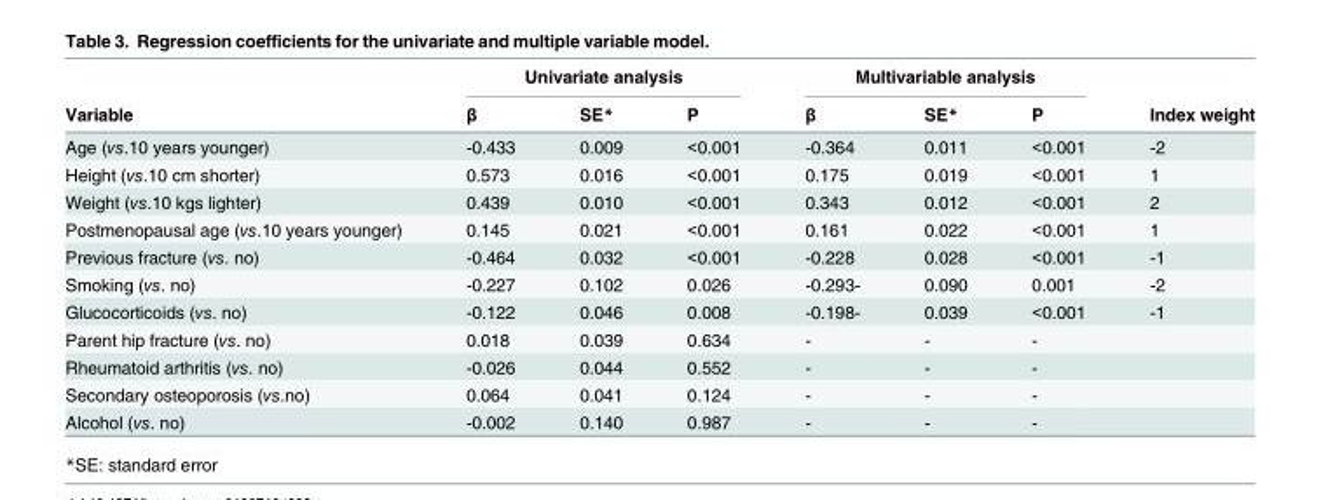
<table><thead><tr><td rowspan="2">Variable</td><td colspan="3">Univariate analysis</td><td colspan="3">Multivariable analysis</td><td rowspan="2">Index weight</td></tr><tr><td>β</td><td>SE*</td><td>P</td><td>β</td><td>SE*</td><td>P</td></tr></thead><tbody><tr><td>Age (vs.10 years younger)</td><td>-0.433</td><td>0.009</td><td>&lt;0.001</td><td>-0.364</td><td>0.011</td><td>&lt;0.001</td><td>-2</td></tr><tr><td>Height (vs.10 cm shorter)</td><td>0.573</td><td>0.016</td><td>&lt;0.001</td><td>0.175</td><td>0.019</td><td>&lt;0.001</td><td>1</td></tr><tr><td>Weight (vs.10 kgs lighter)</td><td>0.439</td><td>0.010</td><td>&lt;0.001</td><td>0.343</td><td>0.012</td><td>&lt;0.001</td><td>2</td></tr><tr><td>Postmenopausal age (vs.10 years younger)</td><td>0.145</td><td>0.021</td><td>&lt;0.001</td><td>0.161</td><td>0.022</td><td>&lt;0.001</td><td>1</td></tr><tr><td>Previous fracture (vs. no)</td><td>-0.464</td><td>0.032</td><td>&lt;0.001</td><td>-0.228</td><td>0.028</td><td>&lt;0.001</td><td>-1</td></tr><tr><td>Smoking (vs. no)</td><td>-0.227</td><td>0.102</td><td>0.026</td><td>-0.293-</td><td>0.090</td><td>0.001</td><td>-2</td></tr><tr><td>Glucocorticoids (vs. no)</td><td>-0.122</td><td>0.046</td><td>0.008</td><td>-0.198-</td><td>0.039</td><td>&lt;0.001</td><td>-1</td></tr><tr><td>Parent hip fracture (vs. no)</td><td>0.018</td><td>0.039</td><td>0.634</td><td>-</td><td>-</td><td>-</td><td></td></tr><tr><td>Rheumatoid arthritis (vs. no)</td><td>-0.026</td><td>0.044</td><td>0.552</td><td>-</td><td>-</td><td>-</td><td></td></tr><tr><td>Secondary osteoporosis (vs.no)</td><td>0.064</td><td>0.041</td><td>0.124</td><td>-</td><td>-</td><td>-</td><td></td></tr><tr><td>Alcohol (vs. no)</td><td>-0.002</td><td>0.140</td><td>0.987</td><td>-</td><td>-</td><td>-</td><td></td></tr></tbody></table>